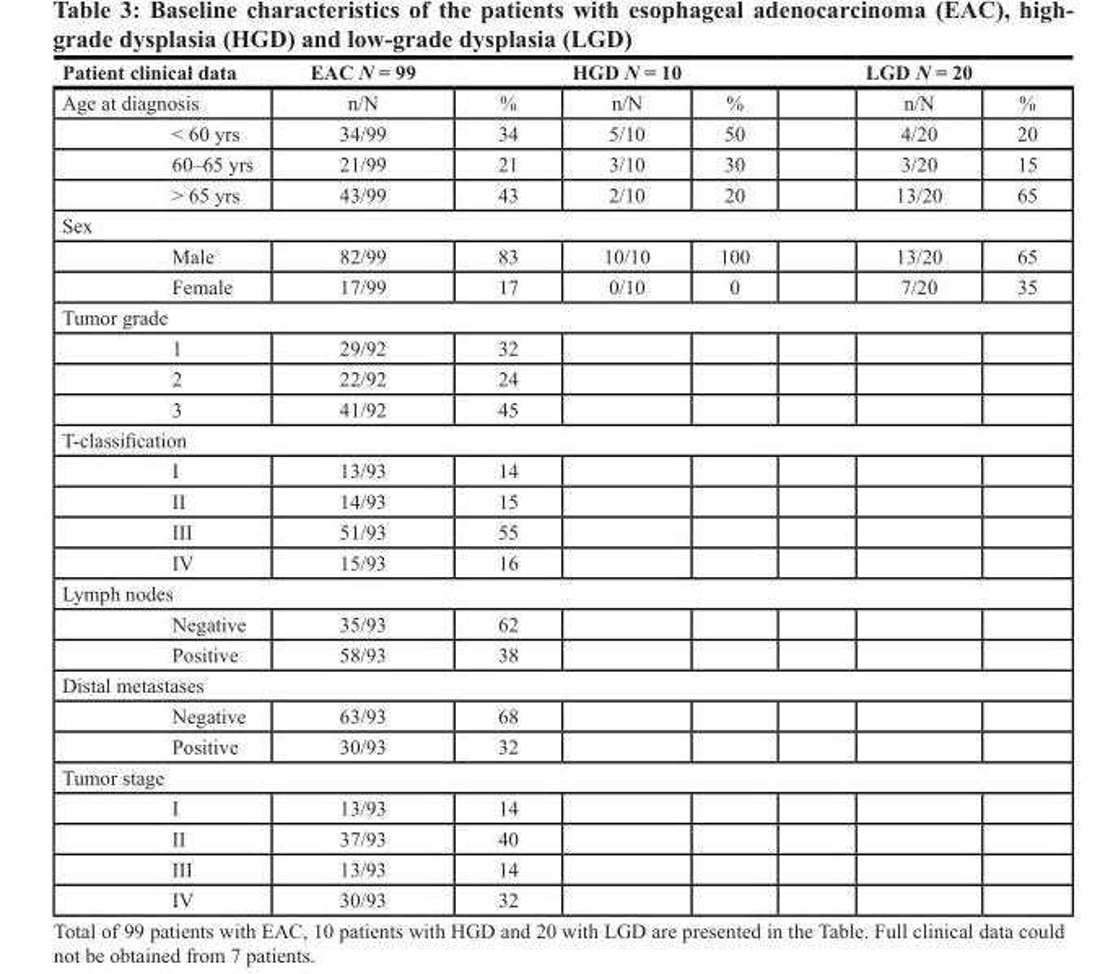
<table><thead><tr><td>Patient clinical data</td><td>EAC N = 99</td><td></td><td>HGD N = 10</td><td></td><td>LGD N = 20</td><td></td></tr></thead><tbody><tr><td>Age at diagnosis</td><td>n/N</td><td>%</td><td>n/N</td><td>%</td><td>n/N</td><td>%</td></tr><tr><td>&lt; 60 yrs</td><td>34/99</td><td>34</td><td>5/10</td><td>50</td><td>4/20</td><td>20</td></tr><tr><td>60–65 yrs</td><td>21/99</td><td>21</td><td>3/10</td><td>30</td><td>3/20</td><td>15</td></tr><tr><td>&gt; 65 yrs</td><td>43/99</td><td>43</td><td>2/10</td><td>20</td><td>13/20</td><td>65</td></tr><tr><td colspan="7">Sex</td></tr><tr><td>Male</td><td>82/99</td><td>83</td><td>10/10</td><td>100</td><td>13/20</td><td>65</td></tr><tr><td>Female</td><td>17/99</td><td>17</td><td>0/10</td><td>0</td><td>7/20</td><td>35</td></tr><tr><td colspan="7">Tumor grade</td></tr><tr><td>1</td><td>29/92</td><td>32</td><td></td><td></td><td></td><td></td></tr><tr><td>2</td><td>22/92</td><td>24</td><td></td><td></td><td></td><td></td></tr><tr><td>3</td><td>41/92</td><td>45</td><td></td><td></td><td></td><td></td></tr><tr><td colspan="7">T-classification</td></tr><tr><td>I</td><td>13/93</td><td>14</td><td></td><td></td><td></td><td></td></tr><tr><td>II</td><td>14/93</td><td>15</td><td></td><td></td><td></td><td></td></tr><tr><td>III</td><td>51/93</td><td>55</td><td></td><td></td><td></td><td></td></tr><tr><td>IV</td><td>15/93</td><td>16</td><td></td><td></td><td></td><td></td></tr><tr><td colspan="7">Lymph nodes</td></tr><tr><td>Negative</td><td>35/93</td><td>62</td><td></td><td></td><td></td><td></td></tr><tr><td>Positive</td><td>58/93</td><td>38</td><td></td><td></td><td></td><td></td></tr><tr><td colspan="7">Distal metastases</td></tr><tr><td>Negative</td><td>63/93</td><td>68</td><td></td><td></td><td></td><td></td></tr><tr><td>Positive</td><td>30/93</td><td>32</td><td></td><td></td><td></td><td></td></tr><tr><td colspan="7">Tumor stage</td></tr><tr><td>I</td><td>13/93</td><td>14</td><td></td><td></td><td></td><td></td></tr><tr><td>II</td><td>37/93</td><td>40</td><td></td><td></td><td></td><td></td></tr><tr><td>III</td><td>13/93</td><td>14</td><td></td><td></td><td></td><td></td></tr><tr><td>IV</td><td>30/93</td><td>32</td><td></td><td></td><td></td><td></td></tr></tbody></table>